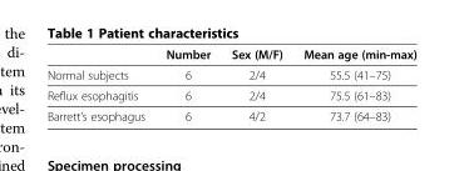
<table><thead><tr><td></td><td>Number</td><td>Sex (M/F)</td><td>Mean age (min-max)</td></tr></thead><tbody><tr><td>Normal subjects</td><td>6</td><td>2/4</td><td>55.5 (41–75)</td></tr><tr><td>Reflux esophagitis</td><td>6</td><td>2/4</td><td>75.5 (61–83)</td></tr><tr><td>Barrett’s esophagus</td><td>6</td><td>4/2</td><td>73.7 (64–83)</td></tr></tbody></table>